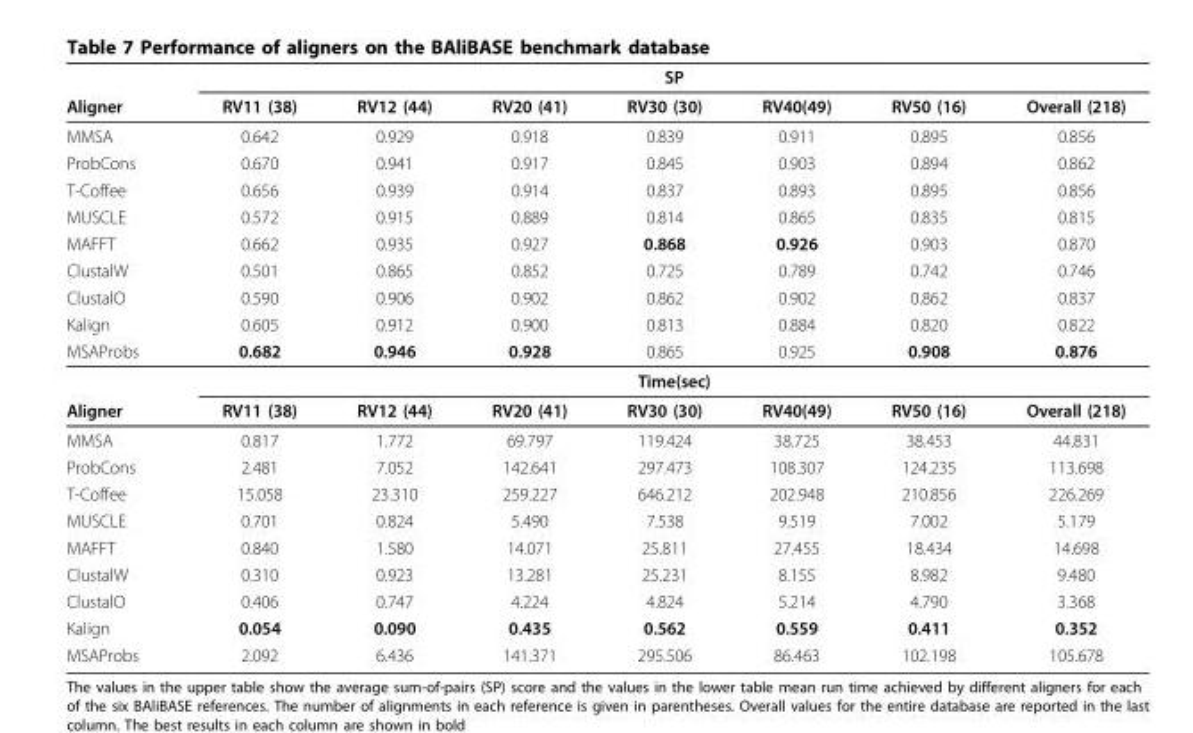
<table><thead><tr><td rowspan="2">Aligner</td><td colspan="7">SP</td></tr><tr><td>RV11 (38)</td><td>RV12 (44)</td><td>RV20 (41)</td><td>RV30 (30)</td><td>RV40(49)</td><td>RV50 (16)</td><td>Overall (218)</td></tr></thead><tbody><tr><td>MMSA</td><td>0.642</td><td>0.929</td><td>0.918</td><td>0.839</td><td>0.911</td><td>0.895</td><td>0.856</td></tr><tr><td>ProbCons</td><td>0.670</td><td>0.941</td><td>0.917</td><td>0.845</td><td>0.903</td><td>0.894</td><td>0.862</td></tr><tr><td>T-Coffee</td><td>0.656</td><td>0.939</td><td>0.914</td><td>0.837</td><td>0.893</td><td>0.895</td><td>0.856</td></tr><tr><td>MUSCLE</td><td>0.572</td><td>0.915</td><td>0.889</td><td>0.814</td><td>0.865</td><td>0.835</td><td>0.815</td></tr><tr><td>MAFFT</td><td>0.662</td><td>0.935</td><td>0.927</td><td>0.868</td><td>0.926</td><td>0.903</td><td>0.870</td></tr><tr><td>ClustalW</td><td>0.501</td><td>0.865</td><td>0.852</td><td>0.725</td><td>0.789</td><td>0.742</td><td>0.746</td></tr><tr><td>ClustalO</td><td>0.590</td><td>0.906</td><td>0.902</td><td>0.862</td><td>0.902</td><td>0.862</td><td>0.837</td></tr><tr><td>Kalign</td><td>0.605</td><td>0.912</td><td>0.900</td><td>0.813</td><td>0.884</td><td>0.820</td><td>0.822</td></tr><tr><td rowspan="2">MSAProbs</td><td>0.682</td><td>0.946</td><td>0.928</td><td>0.865</td><td>0.925</td><td>0.908</td><td>0.876</td></tr><tr><td colspan="7">Time(sec)</td></tr><tr><td>Aligner</td><td>RV11 (38)</td><td>RV12 (44)</td><td>RV20 (41)</td><td>RV30 (30)</td><td>RV40(49)</td><td>RV50 (16)</td><td>Overall (218)</td></tr><tr><td>MMSA</td><td>0.817</td><td>1.772</td><td>69.797</td><td>119.424</td><td>38.725</td><td>38.453</td><td>44.831</td></tr><tr><td>ProbCons</td><td>2.481</td><td>7.052</td><td>142.641</td><td>297.473</td><td>108.307</td><td>124.235</td><td>113.698</td></tr><tr><td>T-Coffee</td><td>15.058</td><td>23.310</td><td>259.227</td><td>646.212</td><td>202.948</td><td>210.856</td><td>226.269</td></tr><tr><td>MUSCLE</td><td>0.701</td><td>0.824</td><td>5.490</td><td>7.538</td><td>9.519</td><td>7.002</td><td>5.179</td></tr><tr><td>MAFFT</td><td>0.840</td><td>1.580</td><td>14.071</td><td>25.811</td><td>27.455</td><td>18.434</td><td>14.698</td></tr><tr><td>ClustalW</td><td>0.310</td><td>0.923</td><td>13.281</td><td>25.231</td><td>8.155</td><td>8.982</td><td>9.480</td></tr><tr><td>ClustalO</td><td>0.406</td><td>0.747</td><td>4.224</td><td>4.824</td><td>5.214</td><td>4.790</td><td>3.368</td></tr><tr><td>Kalign</td><td>0.054</td><td>0.090</td><td>0.435</td><td>0.562</td><td>0.559</td><td>0.411</td><td>0.352</td></tr><tr><td>MSAProbs</td><td>2.092</td><td>6.436</td><td>141.371</td><td>295.506</td><td>86.463</td><td>102.198</td><td>105.678</td></tr></tbody></table>